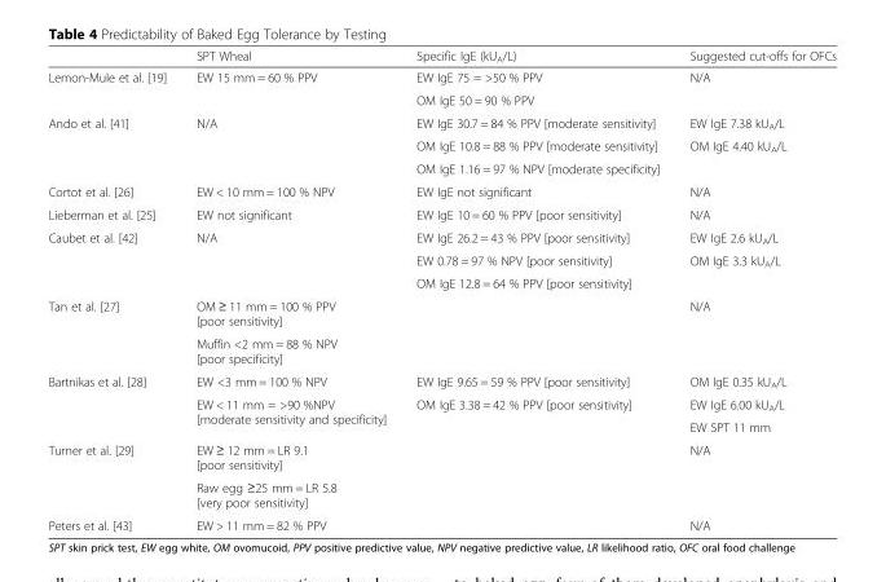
<table><thead><tr><td></td><td>SPT Wheal</td><td>Specific IgE (kU<sub>A</sub>/L)</td><td>Suggested cut-offs for OFCs</td></tr></thead><tbody><tr><td rowspan="2">Lemon-Mule et al. [19]</td><td rowspan="2">EW 15 mm = 60 % PPV</td><td>EW IgE 75 = &gt;50 % PPV</td><td rowspan="2">N/A</td></tr><tr><td>OM IgE 50 = 90 % PPV</td></tr><tr><td rowspan="3">Ando et al. [41]</td><td rowspan="3">N/A</td><td>EW IgE 30.7 = 84 % PPV [moderate sensitivity]</td><td>EW IgE 7.38 kU<sub>A</sub>/L</td></tr><tr><td>OM IgE 10.8 = 88 % PPV [moderate sensitivity]</td><td rowspan="2">OM IgE 4.40 kU<sub>A</sub>/L</td></tr><tr><td>OM IgE 1.16 = 97 % NPV [moderate specificity]</td></tr><tr><td>Cortot et al. [26]</td><td>EW &lt; 10 mm = 100 % NPV</td><td>EW IgE not significant</td><td>N/A</td></tr><tr><td>Lieberman et al. [25]</td><td>EW not significant</td><td>EW IgE 10 = 60 % PPV [poor sensitivity]</td><td>N/A</td></tr><tr><td rowspan="3">Caubet et al. [42]</td><td rowspan="3">N/A</td><td>EW IgE 26.2 = 43 % PPV [poor sensitivity]</td><td>EW IgE 2.6 kU<sub>A</sub>/L</td></tr><tr><td>EW 0.78 = 97 % NPV [poor sensitivity]</td><td rowspan="2">OM IgE 3.3 kU<sub>A</sub>/L</td></tr><tr><td>OM IgE 12.8 = 64 % PPV [poor sensitivity]</td></tr><tr><td rowspan="2">Tan et al. [27]</td><td>OM ≥ 11 mm = 100 % PPV [poor sensitivity]</td><td rowspan="2"></td><td rowspan="2">N/A</td></tr><tr><td>Muffin &lt;2 mm = 88 % NPV [poor specificity]</td></tr><tr><td rowspan="3">Bartnikas et al. [28]</td><td>EW &lt;3 mm = 100 % NPV</td><td>EW IgE 9.65 = 59 % PPV [poor sensitivity]</td><td>OM IgE 0.35 kU<sub>A</sub>/L</td></tr><tr><td rowspan="2">EW &lt; 11 mm = &gt;90 %NPV [moderate sensitivity and specificity]</td><td rowspan="2">OM IgE 3.38 = 42 % PPV [poor sensitivity]</td><td>EW IgE 6.00 kU<sub>A</sub>/L</td></tr><tr><td>EW SPT 11 mm</td></tr><tr><td rowspan="2">Turner et al. [29]</td><td>EW ≥ 12 mm = LR 9.1 [poor sensitivity]</td><td rowspan="2"></td><td rowspan="2">N/A</td></tr><tr><td>Raw egg ≥25 mm = LR 5.8 [very poor sensitivity]</td></tr><tr><td>Peters et al. [43]</td><td>EW &gt; 11 mm = 82 % PPV</td><td></td><td>N/A</td></tr></tbody></table>